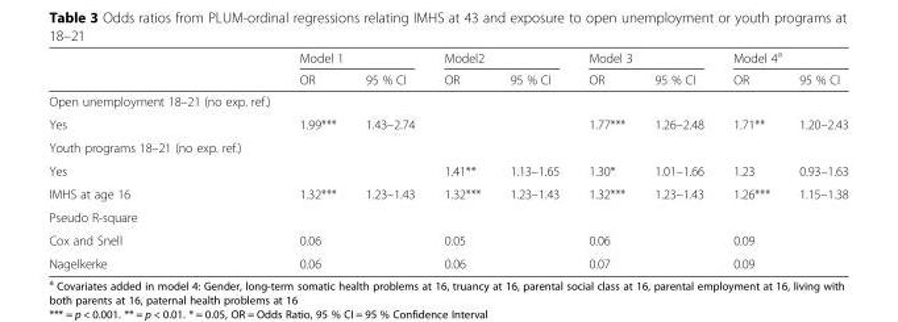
<table><thead><tr><td rowspan="2"></td><td colspan="2">Model 1</td><td colspan="2">Model2</td><td colspan="2">Model 3</td><td colspan="2">Model 4<sup>a</sup></td></tr><tr><td>OR</td><td>95 % CI</td><td>OR</td><td>95 % CI</td><td>OR</td><td>95 % CI</td><td>OR</td><td>95 % CI</td></tr></thead><tbody><tr><td colspan="9">Open unemployment 18–21 (no exp. ref.)</td></tr><tr><td>Yes</td><td>1.99***</td><td>1.43–2.74</td><td></td><td></td><td>1.77***</td><td>1.26–2.48</td><td>1.71**</td><td>1.20–2.43</td></tr><tr><td colspan="9">Youth programs 18–21 (no exp. ref.)</td></tr><tr><td>Yes</td><td></td><td></td><td>1.41**</td><td>1.13–1.65</td><td>1.30*</td><td>1.01–1.66</td><td>1.23</td><td>0.93–1.63</td></tr><tr><td>IMHS at age 16</td><td>1.32***</td><td>1.23–1.43</td><td>1.32***</td><td>1.23–1.43</td><td>1.32***</td><td>1.23–1.43</td><td>1.26***</td><td>1.15–1.38</td></tr><tr><td colspan="9">Pseudo R-square</td></tr><tr><td>Cox and Snell</td><td>0.06</td><td></td><td>0.05</td><td></td><td>0.06</td><td></td><td>0.09</td><td></td></tr><tr><td>Nagelkerke</td><td>0.06</td><td></td><td>0.06</td><td></td><td>0.07</td><td></td><td>0.09</td><td></td></tr></tbody></table>